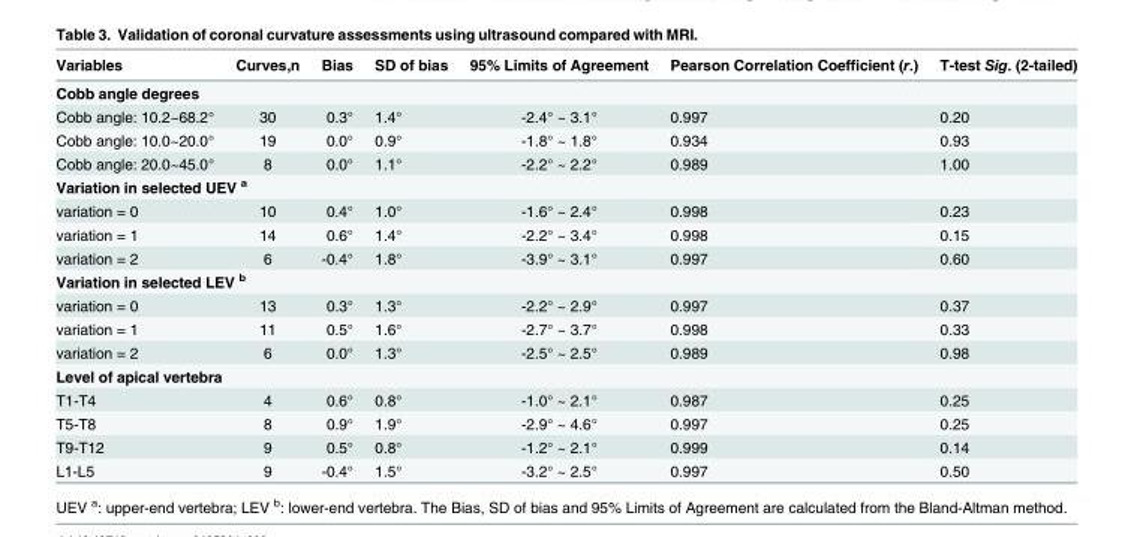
<table><thead><tr><td>Variables</td><td>Curves,n</td><td>Bias</td><td>SD of bias</td><td>95% Limits of Agreement</td><td>Pearson Correlation Coefficient (r.)</td><td>T-test Sig. (2-tailed)</td></tr></thead><tbody><tr><td colspan="7">Cobb angle degrees</td></tr><tr><td>Cobb angle: 10.2~68.2°</td><td>30</td><td>0.3°</td><td>1.4°</td><td>-2.4° ~ 3.1°</td><td>0.997</td><td>0.20</td></tr><tr><td>Cobb angle: 10.0~20.0°</td><td>19</td><td>0.0°</td><td>0.9°</td><td>-1.8° ~ 1.8°</td><td>0.934</td><td>0.93</td></tr><tr><td>Cobb angle: 20.0~45.0°</td><td>8</td><td>0.0°</td><td>1.1°</td><td>-2.2° ~ 2.2°</td><td>0.989</td><td>1.00</td></tr><tr><td colspan="7">Variation in selected UEV <sup>a</sup></td></tr><tr><td>variation = 0</td><td>10</td><td>0.4°</td><td>1.0°</td><td>-1.6° ~ 2.4°</td><td>0.998</td><td>0.23</td></tr><tr><td>variation = 1</td><td>14</td><td>0.6°</td><td>1.4°</td><td>-2.2° ~ 3.4°</td><td>0.998</td><td>0.15</td></tr><tr><td>variation = 2</td><td>6</td><td>-0.4°</td><td>1.8°</td><td>-3.9° ~ 3.1°</td><td>0.997</td><td>0.60</td></tr><tr><td colspan="7">Variation in selected LEV <sup>b</sup></td></tr><tr><td>variation = 0</td><td>13</td><td>0.3°</td><td>1.3°</td><td>-2.2° ~ 2.9°</td><td>0.997</td><td>0.37</td></tr><tr><td>variation = 1</td><td>11</td><td>0.5°</td><td>1.6°</td><td>-2.7° ~ 3.7°</td><td>0.998</td><td>0.33</td></tr><tr><td>variation = 2</td><td>6</td><td>0.0°</td><td>1.3°</td><td>-2.5° ~ 2.5°</td><td>0.989</td><td>0.98</td></tr><tr><td colspan="7">Level of apical vertebra</td></tr><tr><td>T1-T4</td><td>4</td><td>0.6°</td><td>0.8°</td><td>-1.0° ~ 2.1°</td><td>0.987</td><td>0.25</td></tr><tr><td>T5-T8</td><td>8</td><td>0.9°</td><td>1.9°</td><td>-2.9° ~ 4.6°</td><td>0.997</td><td>0.25</td></tr><tr><td>T9-T12</td><td>9</td><td>0.5°</td><td>0.8°</td><td>-1.2° ~ 2.1°</td><td>0.999</td><td>0.14</td></tr><tr><td>L1-L5</td><td>9</td><td>-0.4°</td><td>1.5°</td><td>-3.2° ~ 2.5°</td><td>0.997</td><td>0.50</td></tr></tbody></table>